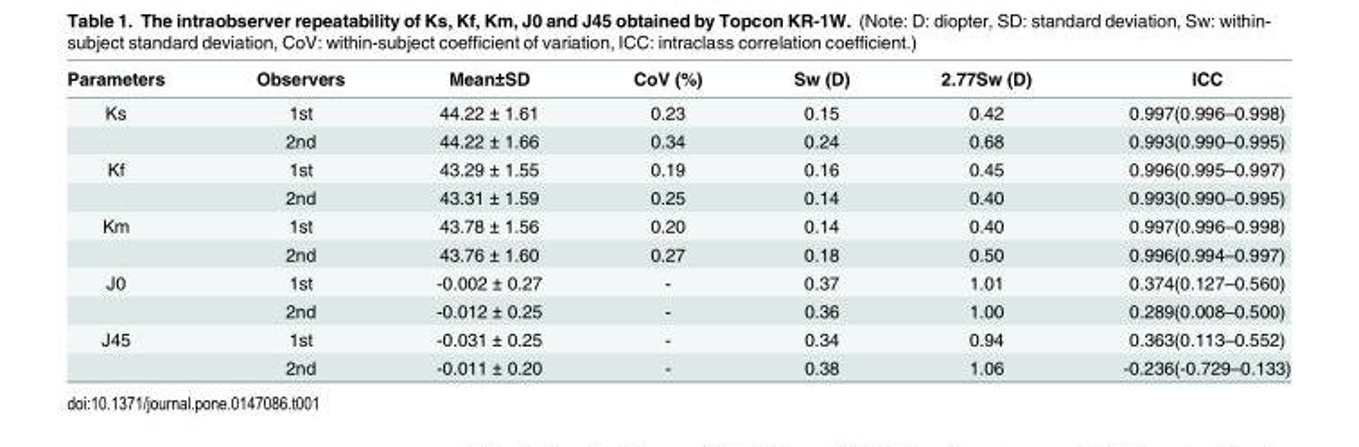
<table><thead><tr><td>Parameters</td><td>Observers</td><td>Mean±SD</td><td>CoV (%)</td><td>Sw (D)</td><td>2.77Sw (D)</td><td>ICC</td></tr></thead><tbody><tr><td rowspan="2">Ks</td><td>1st</td><td>44.22 ± 1.61</td><td>0.23</td><td>0.15</td><td>0.42</td><td>0.997(0.996–0.998)</td></tr><tr><td>2nd</td><td>44.22 ± 1.66</td><td>0.34</td><td>0.24</td><td>0.68</td><td>0.993(0.990–0.995)</td></tr><tr><td rowspan="2">Kf</td><td>1st</td><td>43.29 ± 1.55</td><td>0.19</td><td>0.16</td><td>0.45</td><td>0.996(0.995–0.997)</td></tr><tr><td>2nd</td><td>43.31 ± 1.59</td><td>0.25</td><td>0.14</td><td>0.40</td><td>0.993(0.990–0.995)</td></tr><tr><td rowspan="2">Km</td><td>1st</td><td>43.78 ± 1.56</td><td>0.20</td><td>0.14</td><td>0.40</td><td>0.997(0.996–0.998)</td></tr><tr><td>2nd</td><td>43.76 ± 1.60</td><td>0.27</td><td>0.18</td><td>0.50</td><td>0.996(0.994–0.997)</td></tr><tr><td rowspan="2">J0</td><td>1st</td><td>-0.002 ± 0.27</td><td>-</td><td>0.37</td><td>1.01</td><td>0.374(0.127–0.560)</td></tr><tr><td>2nd</td><td>-0.012 ± 0.25</td><td>-</td><td>0.36</td><td>1.00</td><td>0.289(0.008–0.500)</td></tr><tr><td rowspan="2">J45</td><td>1st</td><td>-0.031 ± 0.25</td><td>-</td><td>0.34</td><td>0.94</td><td>0.363(0.113–0.552)</td></tr><tr><td>2nd</td><td>-0.011 ± 0.20</td><td>-</td><td>0.38</td><td>1.06</td><td>-0.236(-0.729–0.133)</td></tr></tbody></table>